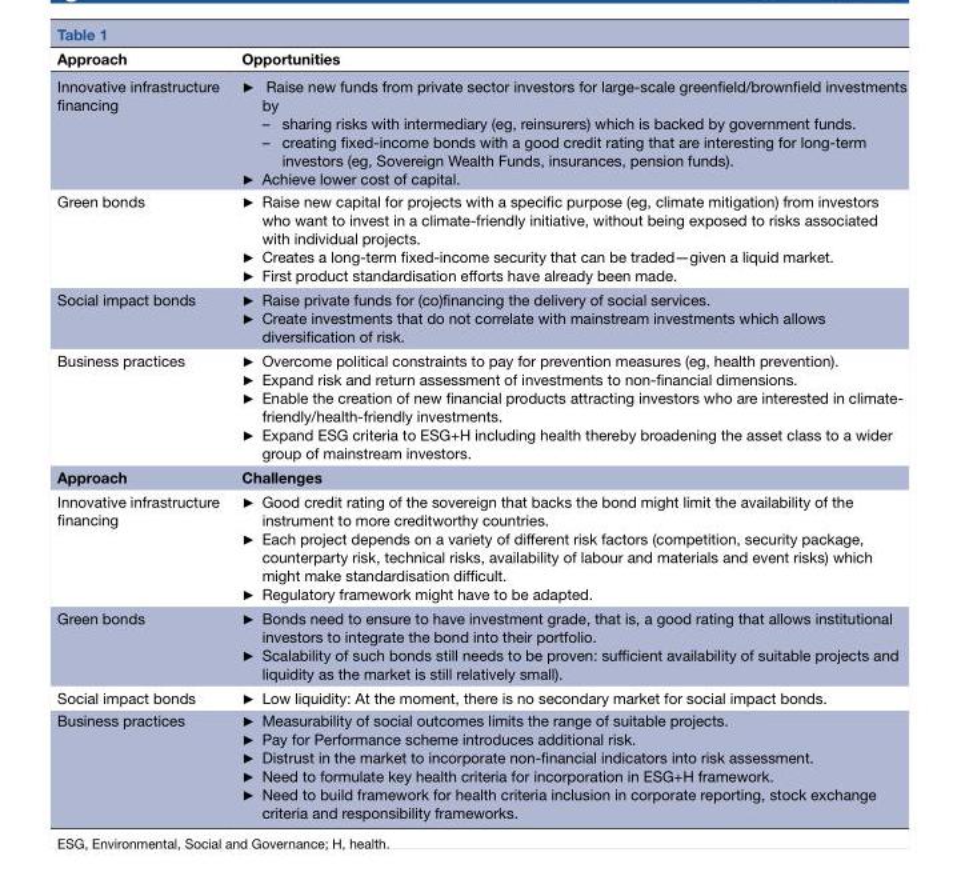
<table><thead><tr><td>Approach</td><td>Opportunities</td></tr></thead><tbody><tr><td>Innovative infrastructure financing</td><td>► Raise new funds from private sector investors for large-scale greenfield/brownfield investments by – sharing risks with intermediary (eg, reinsurers) which is backed by government funds. – creating fixed-income bonds with a good credit rating that are interesting for long-term investors (eg, Sovereign Wealth Funds, insurances, pension funds). ► Achieve lower cost of capital.</td></tr><tr><td>Green bonds</td><td>► Raise new capital for projects with a specific purpose (eg, climate mitigation) from investors who want to invest in a climate-friendly initiative, without being exposed to risks associated with individual projects. ► Creates a long-term fixed-income security that can be traded—given a liquid market. ► First product standardisation efforts have already been made.</td></tr><tr><td>Social impact bonds</td><td>► Raise private funds for (co)financing the delivery of social services. ► Create investments that do not correlate with mainstream investments which allows diversification of risk.</td></tr><tr><td>Business practices</td><td>► Overcome political constraints to pay for prevention measures (eg, health prevention). ► Expand risk and return assessment of investments to non-financial dimensions. ► Enable the creation of new financial products attracting investors who are interested in climate- friendly/health-friendly investments. ► Expand ESG criteria to ESG+H including health thereby broadening the asset class to a wider group of mainstream investors.</td></tr><tr><td>Approach</td><td>Challenges</td></tr><tr><td>Innovative infrastructure financing</td><td>► Good credit rating of the sovereign that backs the bond might limit the availability of the instrument to more creditworthy countries. ► Each project depends on a variety of different risk factors (competition, security package, counterparty risk, technical risks, availability of labour and materials and event risks) which might make standardisation difficult. ► Regulatory framework might have to be adapted.</td></tr><tr><td>Green bonds</td><td>► Bonds need to ensure to have investment grade, that is, a good rating that allows institutional investors to integrate the bond into their portfolio. ► Scalability of such bonds still needs to be proven: sufficient availability of suitable projects and liquidity as the market is still relatively small).</td></tr><tr><td>Social impact bonds</td><td>► Low liquidity: At the moment, there is no secondary market for social impact bonds.</td></tr><tr><td>Business practices</td><td>► Measurability of social outcomes limits the range of suitable projects. ► Pay for Performance scheme introduces additional risk. ► Distrust in the market to incorporate non-financial indicators into risk assessment. ► Need to formulate key health criteria for incorporation in ESG+H framework. ► Need to build framework for health criteria inclusion in corporate reporting, stock exchange criteria and responsibility frameworks.</td></tr></tbody></table>